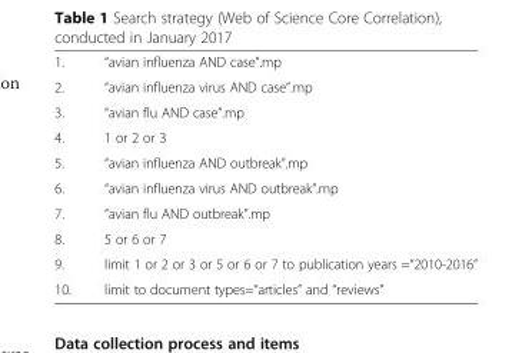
<table><tbody><tr><td>1.</td><td>“avian influenza AND case”.mp</td></tr><tr><td>2.</td><td>“avian influenza virus AND case”.mp</td></tr><tr><td>3.</td><td>“avian flu AND case”.mp</td></tr><tr><td>4.</td><td>1 or 2 or 3</td></tr><tr><td>5.</td><td>“avian influenza AND outbreak”.mp</td></tr><tr><td>6.</td><td>“avian influenza virus AND outbreak”.mp</td></tr><tr><td>7.</td><td>“avian flu AND outbreak”.mp</td></tr><tr><td>8.</td><td>5 or 6 or 7</td></tr><tr><td>9.</td><td>limit 1 or 2 or 3 or 5 or 6 or 7 to publication years =“2010-2016”</td></tr><tr><td>10.</td><td>limit to document types=“articles” and “reviews”</td></tr></tbody></table>